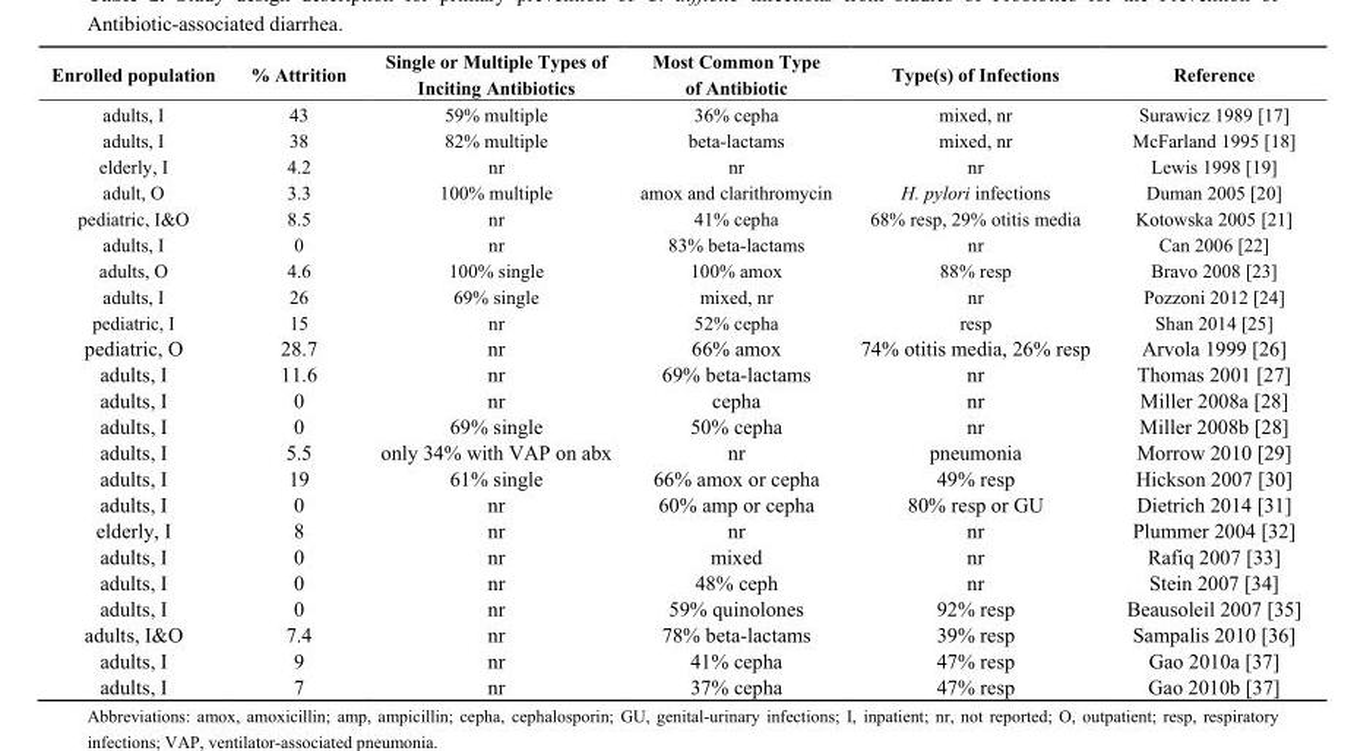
<table><thead><tr><td>Enrolled population</td><td>% Attrition</td><td>Single or Multiple Types of Inciting Antibiotics</td><td>Most Common Type of Antibiotic</td><td>Type(s) of Infections</td><td>Reference</td></tr></thead><tbody><tr><td>adults, I</td><td>43</td><td>59% multiple</td><td>36% cepha</td><td>mixed, nr</td><td>Surawicz 1989 [17]</td></tr><tr><td>adults, I</td><td>38</td><td>82% multiple</td><td>beta-lactams</td><td>mixed, nr</td><td>McFarland 1995 [18]</td></tr><tr><td>elderly, I</td><td>4.2</td><td>nr</td><td>nr</td><td>nr</td><td>Lewis 1998 [19]</td></tr><tr><td>adult, O</td><td>3.3</td><td>100% multiple</td><td>amox and clarithromycin</td><td>H. pylori infections</td><td>Duman 2005 [20]</td></tr><tr><td>pediatric, I&amp;O</td><td>8.5</td><td>nr</td><td>41% cepha</td><td>68% resp, 29% otitis media</td><td>Kotowska 2005 [21]</td></tr><tr><td>adults, I</td><td>0</td><td>nr</td><td>83% beta-lactams</td><td>nr</td><td>Can 2006 [22]</td></tr><tr><td>adults, O</td><td>4.6</td><td>100% single</td><td>100% amox</td><td>88% resp</td><td>Bravo 2008 [23]</td></tr><tr><td>adults, I</td><td>26</td><td>69% single</td><td>mixed, nr</td><td>nr</td><td>Pozzoni 2012 [24]</td></tr><tr><td>pediatric, I</td><td>15</td><td>nr</td><td>52% cepha</td><td>resp</td><td>Shan 2014 [25]</td></tr><tr><td>pediatric, O</td><td>28.7</td><td>nr</td><td>66% amox</td><td>74% otitis media, 26% resp</td><td>Arvola 1999 [26]</td></tr><tr><td>adults, I</td><td>11.6</td><td>nr</td><td>69% beta-lactams</td><td>nr</td><td>Thomas 2001 [27]</td></tr><tr><td>adults, I</td><td>0</td><td>nr</td><td>cepha</td><td>nr</td><td>Miller 2008a [28]</td></tr><tr><td>adults, I</td><td>0</td><td>69% single</td><td>50% cepha</td><td>nr</td><td>Miller 2008b [28]</td></tr><tr><td>adults, I</td><td>5.5</td><td>only 34% with VAP on abx</td><td>nr</td><td>pneumonia</td><td>Morrow 2010 [29]</td></tr><tr><td>adults, I</td><td>19</td><td>61% single</td><td>66% amox or cepha</td><td>49% resp</td><td>Hickson 2007 [30]</td></tr><tr><td>adults, I</td><td>0</td><td>nr</td><td>60% amp or cepha</td><td>80% resp or GU</td><td>Dietrich 2014 [31]</td></tr><tr><td>elderly, I</td><td>8</td><td>nr</td><td>nr</td><td>nr</td><td>Plummer 2004 [32]</td></tr><tr><td>adults, I</td><td>0</td><td>nr</td><td>mixed</td><td>nr</td><td>Rafiq 2007 [33]</td></tr><tr><td>adults, I</td><td>0</td><td>nr</td><td>48% ceph</td><td>nr</td><td>Stein 2007 [34]</td></tr><tr><td>adults, I</td><td>0</td><td>nr</td><td>59% quinolones</td><td>92% resp</td><td>Beausoleil 2007 [35]</td></tr><tr><td>adults, I&amp;O</td><td>7.4</td><td>nr</td><td>78% beta-lactams</td><td>39% resp</td><td>Sampalis 2010 [36]</td></tr><tr><td>adults, I</td><td>9</td><td>nr</td><td>41% cepha</td><td>47% resp</td><td>Gao 2010a [37]</td></tr><tr><td>adults, I</td><td>7</td><td>nr</td><td>37% cepha</td><td>47% resp</td><td>Gao 2010b [37]</td></tr></tbody></table>